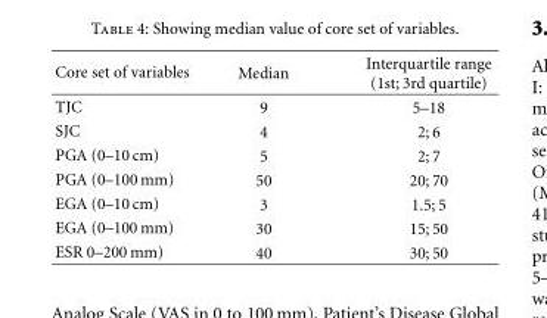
<table><thead><tr><td>Core set of variables</td><td>Median</td><td>Interquartile range (1st; 3rd quartile)</td></tr></thead><tbody><tr><td>TJC</td><td>9</td><td>5–18</td></tr><tr><td>SJC</td><td>4</td><td>2; 6</td></tr><tr><td>PGA (0–10 cm)</td><td>5</td><td>2; 7</td></tr><tr><td>PGA (0–100 mm)</td><td>50</td><td>20; 70</td></tr><tr><td>EGA (0–10 cm)</td><td>3</td><td>1.5; 5</td></tr><tr><td>EGA (0–100 mm)</td><td>30</td><td>15; 50</td></tr><tr><td>ESR 0–200 mm)</td><td>40</td><td>30; 50</td></tr></tbody></table>